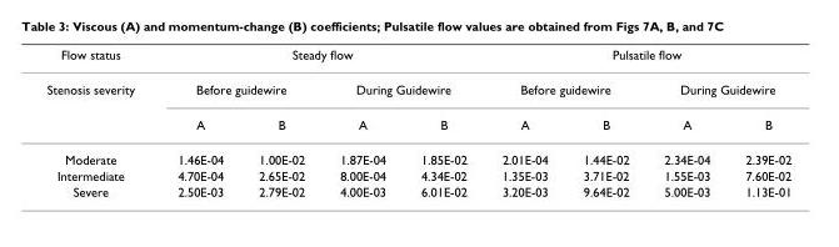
<table><thead><tr><td rowspan="3">Flow status Stenosis severity</td><td colspan="4">Steady flow</td><td colspan="4">Pulsatile flow</td></tr><tr><td colspan="2">Before guidewire</td><td colspan="2">During Guidewire</td><td colspan="2">Before guidewire</td><td colspan="2">During Guidewire</td></tr><tr><td>A</td><td>B</td><td>A</td><td>B</td><td>A</td><td>B</td><td>A</td><td>B</td></tr></thead><tbody><tr><td>Moderate</td><td>1.46E-04</td><td>1.00E-02</td><td>1.87E-04</td><td>1.85E-02</td><td>2.01E-04</td><td>1.44E-02</td><td>2.34E-04</td><td>2.39E-02</td></tr><tr><td>Intermediate</td><td>4.70E-04</td><td>2.65E-02</td><td>8.00E-04</td><td>4.34E-02</td><td>1.35E-03</td><td>3.71E-02</td><td>1.55E-03</td><td>7.60E-02</td></tr><tr><td>Severe</td><td>2.50E-03</td><td>2.79E-02</td><td>4.00E-03</td><td>6.01E-02</td><td>3.20E-03</td><td>9.64E-02</td><td>5.00E-03</td><td>1.13E-01</td></tr></tbody></table>